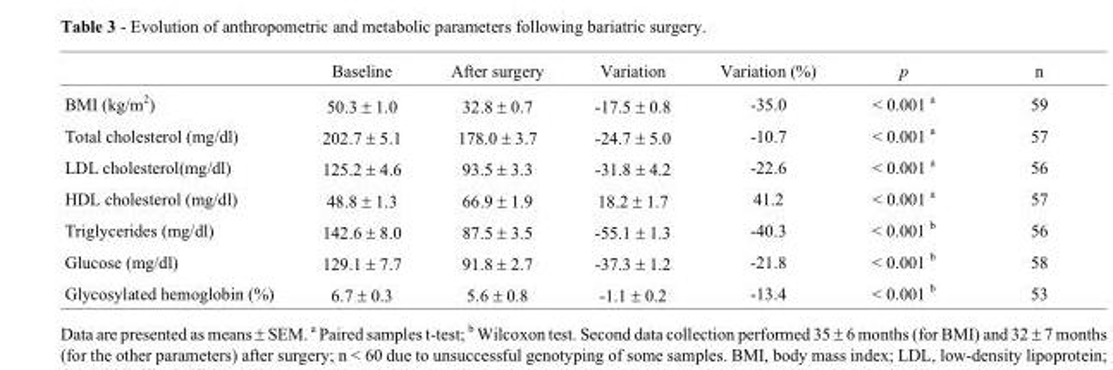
<table><thead><tr><td></td><td>Baseline</td><td>After surgery</td><td>Variation</td><td>Variation (%)</td><td>p</td><td>n</td></tr></thead><tbody><tr><td>BMI (kg/m<sup>2</sup>)</td><td>50.3 ± 1.0</td><td>32.8 ± 0.7</td><td>-17.5 ± 0.8</td><td>-35.0</td><td>&lt; 0.001 a</td><td>59</td></tr><tr><td>Total cholesterol (mg/dl)</td><td>202.7 ± 5.1</td><td>178.0 ± 3.7</td><td>-24.7 ± 5.0</td><td>-10.7</td><td>&lt; 0.001 a</td><td>57</td></tr><tr><td>LDL cholesterol(mg/dl)</td><td>125.2 ± 4.6</td><td>93.5 ± 3.3</td><td>-31.8 ± 4.2</td><td>-22.6</td><td>&lt; 0.001 a</td><td>56</td></tr><tr><td>HDL cholesterol (mg/dl)</td><td>48.8 ± 1.3</td><td>66.9 ± 1.9</td><td>18.2 ± 1.7</td><td>41.2</td><td>&lt; 0.001 a</td><td>57</td></tr><tr><td>Triglycerides (mg/dl)</td><td>142.6 ± 8.0</td><td>87.5 ± 3.5</td><td>-55.1 ± 1.3</td><td>-40.3</td><td>&lt; 0.001 b</td><td>56</td></tr><tr><td>Glucose (mg/dl)</td><td>129.1 ± 7.7</td><td>91.8 ± 2.7</td><td>-37.3 ± 1.2</td><td>-21.8</td><td>&lt; 0.001 b</td><td>58</td></tr><tr><td>Glycosylated hemoglobin (%)</td><td>6.7 ± 0.3</td><td>5.6 ± 0.8</td><td>-1.1 ± 0.2</td><td>-13.4</td><td>&lt; 0.001 b</td><td>53</td></tr></tbody></table>